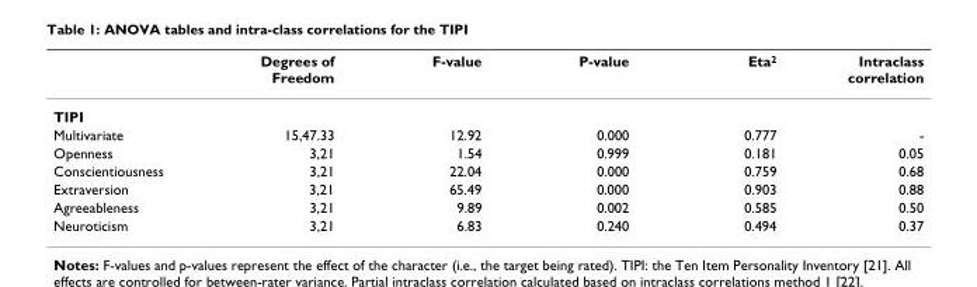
<table><thead><tr><td></td><td>Degrees of Freedom</td><td>F-value</td><td>P-value</td><td>Eta<sup>2</sup></td><td>Intraclass correlation</td></tr></thead><tbody><tr><td colspan="6">TIPI</td></tr><tr><td>Multivariate</td><td>15,47.33</td><td>12.92</td><td>0.000</td><td>0.777</td><td>-</td></tr><tr><td>Openness</td><td>3,21</td><td>1.54</td><td>0.999</td><td>0.181</td><td>0.05</td></tr><tr><td>Conscientiousness</td><td>3,21</td><td>22.04</td><td>0.000</td><td>0.759</td><td>0.68</td></tr><tr><td>Extraversion</td><td>3,21</td><td>65.49</td><td>0.000</td><td>0.903</td><td>0.88</td></tr><tr><td>Agreeableness</td><td>3,21</td><td>9.89</td><td>0.002</td><td>0.585</td><td>0.50</td></tr><tr><td>Neuroticism</td><td>3,21</td><td>6.83</td><td>0.240</td><td>0.494</td><td>0.37</td></tr></tbody></table>